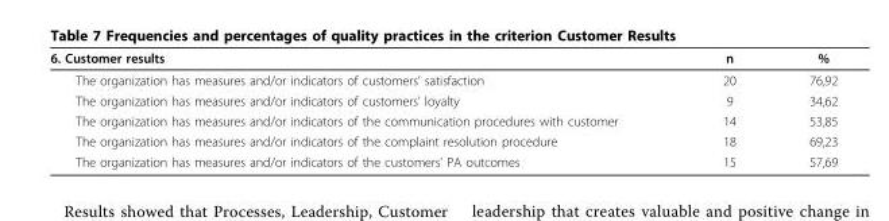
<table><thead><tr><td>6. Customer results</td><td>n</td><td>%</td></tr></thead><tbody><tr><td>The organization has measures and/or indicators of customers’ satisfaction</td><td>20</td><td>76,92</td></tr><tr><td>The organization has measures and/or indicators of customers’ loyalty</td><td>9</td><td>34,62</td></tr><tr><td>The organization has measures and/or indicators of the communication procedures with customer</td><td>14</td><td>53,85</td></tr><tr><td>The organization has measures and/or indicators of the complaint resolution procedure</td><td>18</td><td>69,23</td></tr><tr><td>The organization has measures and/or indicators of the customers’ PA outcomes</td><td>15</td><td>57,69</td></tr></tbody></table>